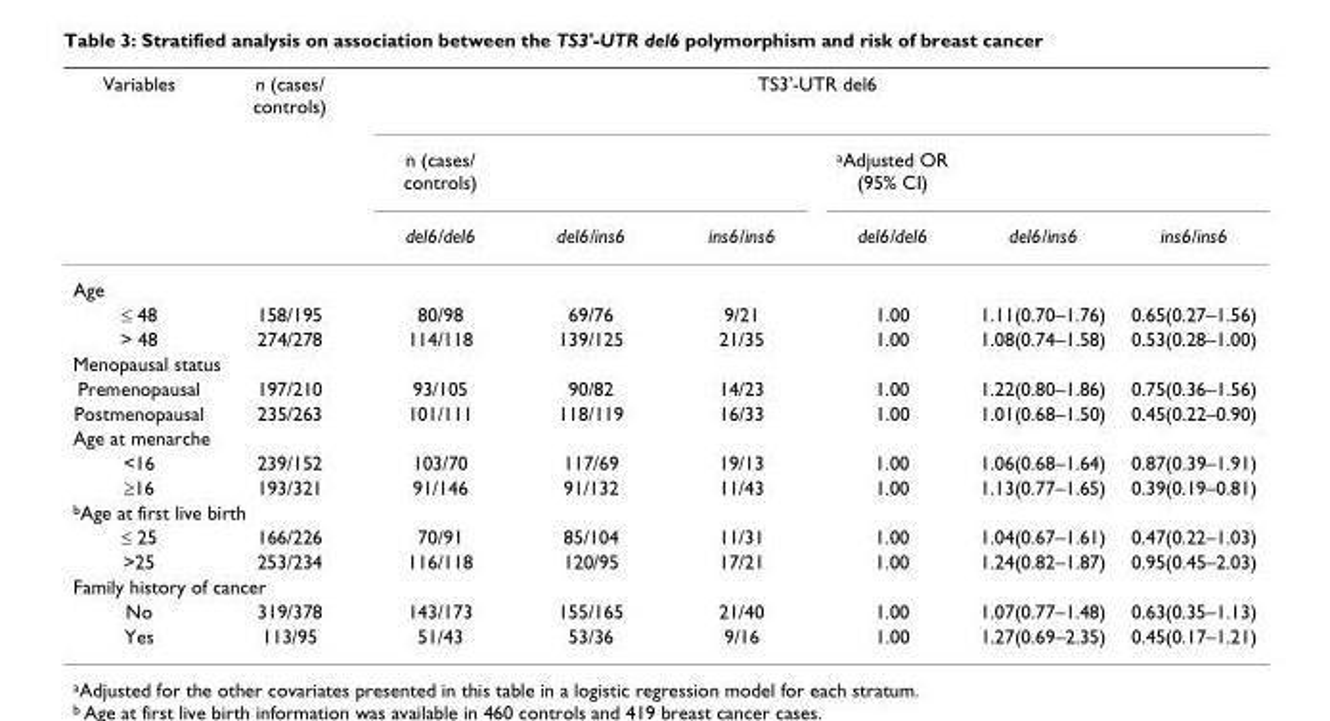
<table><thead><tr><td rowspan="3">Variables</td><td rowspan="3">n (cases/ controls)</td><td colspan="6">TS3&#x27;-UTR del6</td></tr><tr><td rowspan="2">n (cases/ controls) del6/del6</td><td rowspan="2">del6/ins6</td><td rowspan="2">ins6/ins6</td><td rowspan="2">aAdjusted OR (95% CI) del6/del6</td><td rowspan="2">del6/ins6</td><td rowspan="2">ins6/ins6</td></tr><tr></tr></thead><tbody><tr><td colspan="8">Age</td></tr><tr><td>≤ 48</td><td>158/195</td><td>80/98</td><td>69/76</td><td>9/21</td><td>1.00</td><td>1.11(0.70–1.76)</td><td>0.65(0.27–1.56)</td></tr><tr><td>&gt; 48</td><td>274/278</td><td>114/118</td><td>139/125</td><td>21/35</td><td>1.00</td><td>1.08(0.74–1.58)</td><td>0.53(0.28–1.00)</td></tr><tr><td colspan="8">Menopausal status</td></tr><tr><td>Premenopausal</td><td>197/210</td><td>93/105</td><td>90/82</td><td>14/23</td><td>1.00</td><td>1.22(0.80–1.86)</td><td>0.75(0.36–1.56)</td></tr><tr><td>Postmenopausal</td><td>235/263</td><td>101/111</td><td>118/119</td><td>16/33</td><td>1.00</td><td>1.01(0.68–1.50)</td><td>0.45(0.22–0.90)</td></tr><tr><td colspan="8">Age at menarche</td></tr><tr><td>&lt;16</td><td>239/152</td><td>103/70</td><td>117/69</td><td>19/13</td><td>1.00</td><td>1.06(0.68–1.64)</td><td>0.87(0.39–1.91)</td></tr><tr><td>≥16</td><td>193/321</td><td>91/146</td><td>91/132</td><td>11/43</td><td>1.00</td><td>1.13(0.77–1.65)</td><td>0.39(0.19–0.81)</td></tr><tr><td colspan="8">bAge at first live birth</td></tr><tr><td>≤ 25</td><td>166/226</td><td>70/91</td><td>85/104</td><td>11/31</td><td>1.00</td><td>1.04(0.67–1.61)</td><td>0.47(0.22–1.03)</td></tr><tr><td>&gt;25</td><td>253/234</td><td>116/118</td><td>120/95</td><td>17/21</td><td>1.00</td><td>1.24(0.82–1.87)</td><td>0.95(0.45–2.03)</td></tr><tr><td colspan="8">Family history of cancer</td></tr><tr><td>No</td><td>319/378</td><td>143/173</td><td>155/165</td><td>21/40</td><td>1.00</td><td>1.07(0.77–1.48)</td><td>0.63(0.35–1.13)</td></tr><tr><td>Yes</td><td>113/95</td><td>51/43</td><td>53/36</td><td>9/16</td><td>1.00</td><td>1.27(0.69–2.35)</td><td>0.45(0.17–1.21)</td></tr></tbody></table>